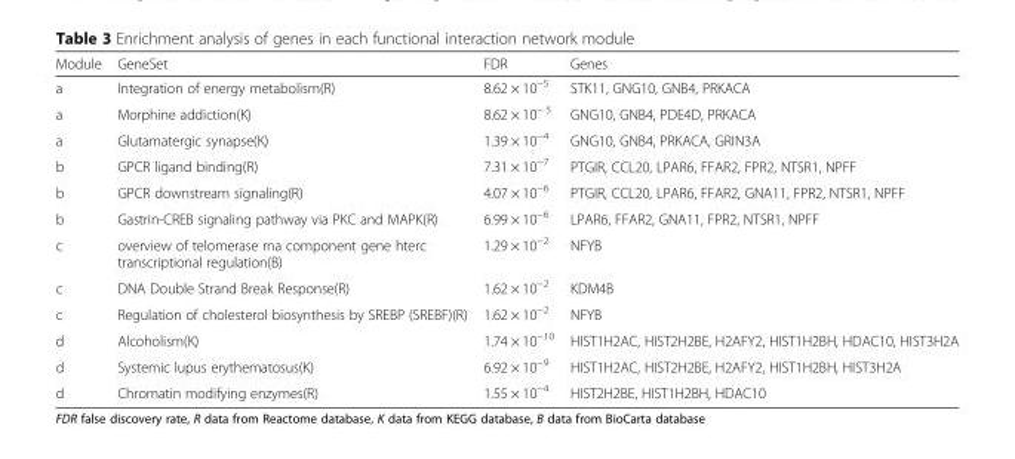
<table><thead><tr><td>Module</td><td>GeneSet</td><td>FDR</td><td>Genes</td></tr></thead><tbody><tr><td>a</td><td>Integration of energy metabolism(R)</td><td>8.62 × 10<sup>−5</sup></td><td>STK11, GNG10, GNB4, PRKACA</td></tr><tr><td>a</td><td>Morphine addiction(K)</td><td>8.62 × 10<sup>− 5</sup></td><td>GNG10, GNB4, PDE4D, PRKACA</td></tr><tr><td>a</td><td>Glutamatergic synapse(K)</td><td>1.39 × 10<sup>−4</sup></td><td>GNG10, GNB4, PRKACA, GRIN3A</td></tr><tr><td>b</td><td>GPCR ligand binding(R)</td><td>7.31 × 10<sup>−7</sup></td><td>PTGIR, CCL20, LPAR6, FFAR2, FPR2, NTSR1, NPFF</td></tr><tr><td>b</td><td>GPCR downstream signaling(R)</td><td>4.07 × 10<sup>−6</sup></td><td>PTGIR, CCL20, LPAR6, FFAR2, GNA11, FPR2, NTSR1, NPFF</td></tr><tr><td>b</td><td>Gastrin-CREB signaling pathway via PKC and MAPK(R)</td><td>6.99 × 10<sup>−6</sup></td><td>LPAR6, FFAR2, GNA11, FPR2, NTSR1, NPFF</td></tr><tr><td>c</td><td>overview of telomerase rna component gene hterc transcriptional regulation(B)</td><td>1.29 × 10<sup>−2</sup></td><td>NFYB</td></tr><tr><td>c</td><td>DNA Double Strand Break Response(R)</td><td>1.62 × 10<sup>−2</sup></td><td>KDM4B</td></tr><tr><td>c</td><td>Regulation of cholesterol biosynthesis by SREBP (SREBF)(R)</td><td>1.62 × 10<sup>−2</sup></td><td>NFYB</td></tr><tr><td>d</td><td>Alcoholism(K)</td><td>1.74 × 10<sup>−10</sup></td><td>HIST1H2AC, HIST2H2BE, H2AFY2, HIST1H2BH, HDAC10, HIST3H2A</td></tr><tr><td>d</td><td>Systemic lupus erythematosus(K)</td><td>6.92 × 10<sup>−9</sup></td><td>HIST1H2AC, HIST2H2BE, H2AFY2, HIST1H2BH, HIST3H2A</td></tr><tr><td>d</td><td>Chromatin modifying enzymes(R)</td><td>1.55 × 10<sup>−4</sup></td><td>HIST2H2BE, HIST1H2BH, HDAC10</td></tr></tbody></table>